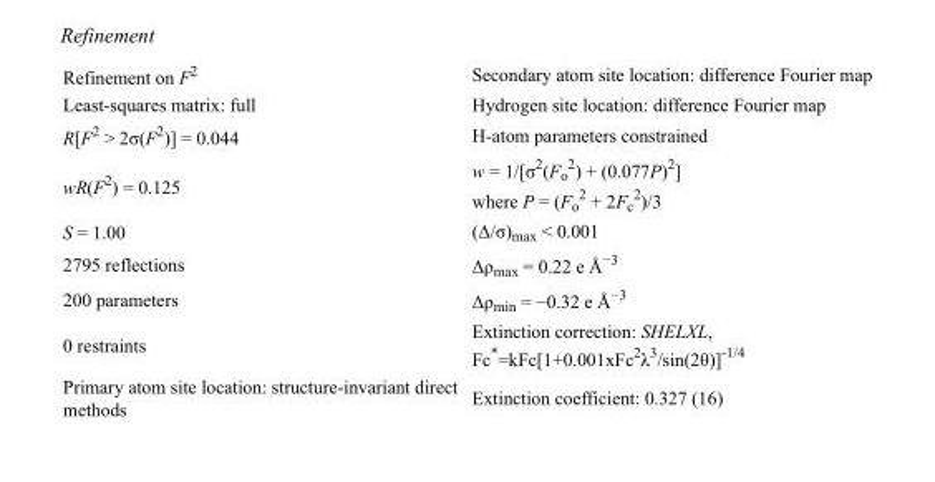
<table><tbody><tr><td>Refinement on F<sup>2</sup></td><td>Secondary atom site location: difference Fourier map</td></tr><tr><td>Least-squares matrix: full</td><td>Hydrogen site location: difference Fourier map</td></tr><tr><td>R[F<sup>2</sup> &gt; 2σ(F<sup>2</sup>)] = 0.044</td><td>H-atom parameters constrained</td></tr><tr><td>wR(F<sup>2</sup>) = 0.125</td><td>w = 1/[σ<sup>2</sup>(F<sub>o</sub> <sup>2</sup>) + (0.077P)<sup>2</sup>] where P = (F<sub>o</sub> <sup>2</sup> + 2F<sub>c</sub> <sup>2</sup>)/3</td></tr><tr><td>S = 1.00</td><td>(Δ/σ)<sub>max</sub> &lt; 0.001</td></tr><tr><td>2795 reflections</td><td>Δρ<sub>max</sub> = 0.22 e Å<sup>−3</sup></td></tr><tr><td>200 parameters</td><td>Δρ<sub>min</sub> = −0.32 e Å<sup>−3</sup></td></tr><tr><td>0 restraints</td><td>Extinction correction: SHELXL, Fc*=kFc[1+0.001xFc<sup>2</sup>λ<sup>3</sup>/sin(2θ)]<sup>-1/4</sup></td></tr><tr><td>Primary atom site location: structure-invariant direct methods</td><td>Extinction coefficient: 0.327 (16)</td></tr></tbody></table>